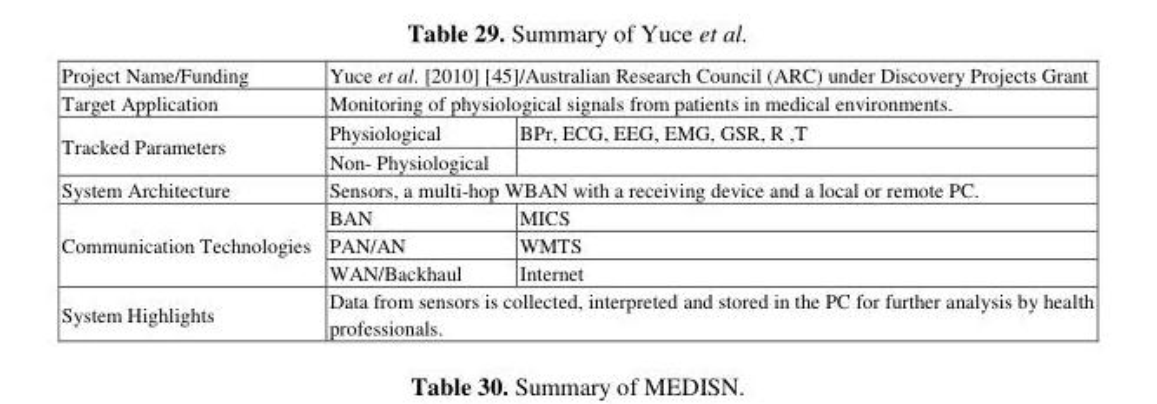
<table><tbody><tr><td>Project Name/Funding</td><td colspan="2">Yuce et al. [2010] [45]/Australian Research Council (ARC) under Discovery Projects Grant</td></tr><tr><td>Target Application</td><td colspan="2">Monitoring of physiological signals from patients in medical environments.</td></tr><tr><td rowspan="2">Tracked Parameters</td><td>Physiological</td><td>BPr, ECG, EEG, EMG, GSR, R ,T</td></tr><tr><td>Non- Physiological</td><td></td></tr><tr><td>System Architecture</td><td colspan="2">Sensors, a multi-hop WBAN with a receiving device and a local or remote PC.</td></tr><tr><td rowspan="3">Communication Technologies</td><td>BAN</td><td>MICS</td></tr><tr><td>PAN/AN</td><td>WMTS</td></tr><tr><td>WAN/Backhaul</td><td>Internet</td></tr><tr><td>System Highlights</td><td colspan="2">Data from sensors is collected, interpreted and stored in the PC for further analysis by health professionals.</td></tr></tbody></table>